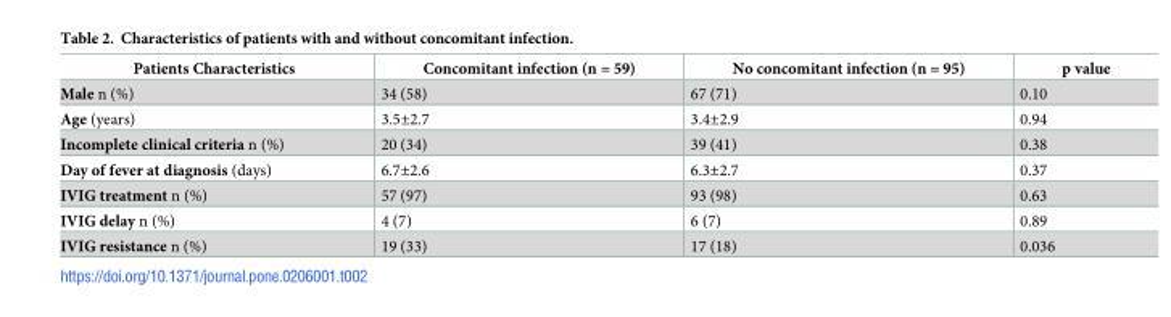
<table><thead><tr><td>Patients Characteristics</td><td>Concomitant infection (n = 59)</td><td>No concomitant infection (n = 95)</td><td>p value</td></tr></thead><tbody><tr><td>Male n (%)</td><td>34 (58)</td><td>67 (71)</td><td>0.10</td></tr><tr><td>Age (years)</td><td>3.5±2.7</td><td>3.4±2.9</td><td>0.94</td></tr><tr><td>Incomplete clinical criteria n (%)</td><td>20 (34)</td><td>39 (41)</td><td>0.38</td></tr><tr><td>Day of fever at diagnosis (days)</td><td>6.7±2.6</td><td>6.3±2.7</td><td>0.37</td></tr><tr><td>IVIG treatment n (%)</td><td>57 (97)</td><td>93 (98)</td><td>0.63</td></tr><tr><td>IVIG delay n (%)</td><td>4 (7)</td><td>6 (7)</td><td>0.89</td></tr><tr><td>IVIG resistance n (%)</td><td>19 (33)</td><td>17 (18)</td><td>0.036</td></tr></tbody></table>